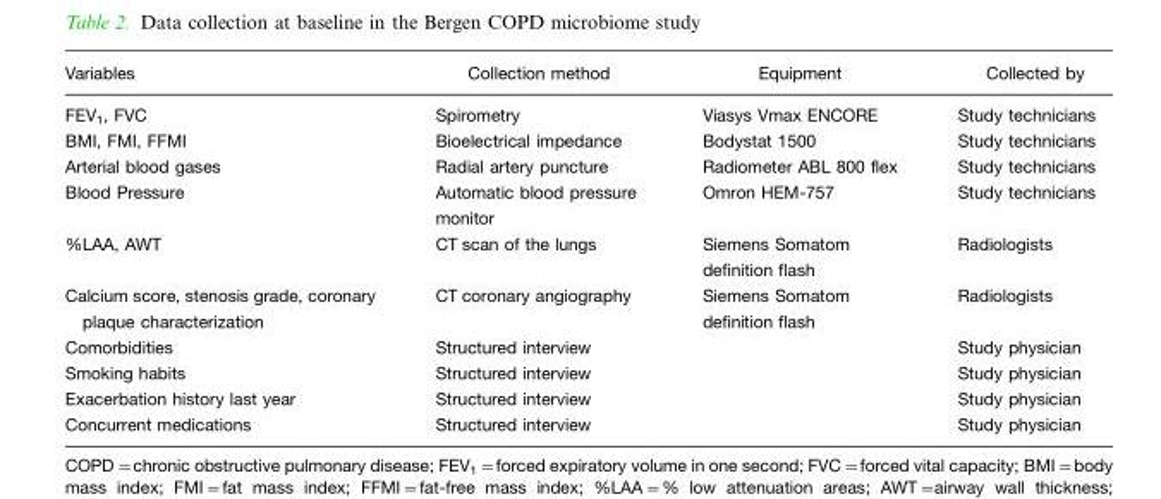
<table><thead><tr><td>Variables</td><td>Collection method</td><td>Equipment</td><td>Collected by</td></tr></thead><tbody><tr><td>FEV<sub>1</sub>, FVC</td><td>Spirometry</td><td>Viasys Vmax ENCORE</td><td>Study technicians</td></tr><tr><td>BMI, FMI, FFMI</td><td>Bioelectrical impedance</td><td>Bodystat 1500</td><td>Study technicians</td></tr><tr><td>Arterial blood gases</td><td>Radial artery puncture</td><td>Radiometer ABL 800 flex</td><td>Study technicians</td></tr><tr><td>Blood Pressure</td><td>Automatic blood pressure monitor</td><td>Omron HEM-757</td><td>Study technicians</td></tr><tr><td>%LAA, AWT</td><td>CT scan of the lungs</td><td>Siemens Somatom definition flash</td><td>Radiologists</td></tr><tr><td>Calcium score, stenosis grade, coronary plaque characterization</td><td>CT coronary angiography</td><td>Siemens Somatom definition flash</td><td>Radiologists</td></tr><tr><td>Comorbidities</td><td>Structured interview</td><td></td><td>Study physician</td></tr><tr><td>Smoking habits</td><td>Structured interview</td><td></td><td>Study physician</td></tr><tr><td>Exacerbation history last year</td><td>Structured interview</td><td></td><td>Study physician</td></tr><tr><td>Concurrent medications</td><td>Structured interview</td><td></td><td>Study physician</td></tr></tbody></table>